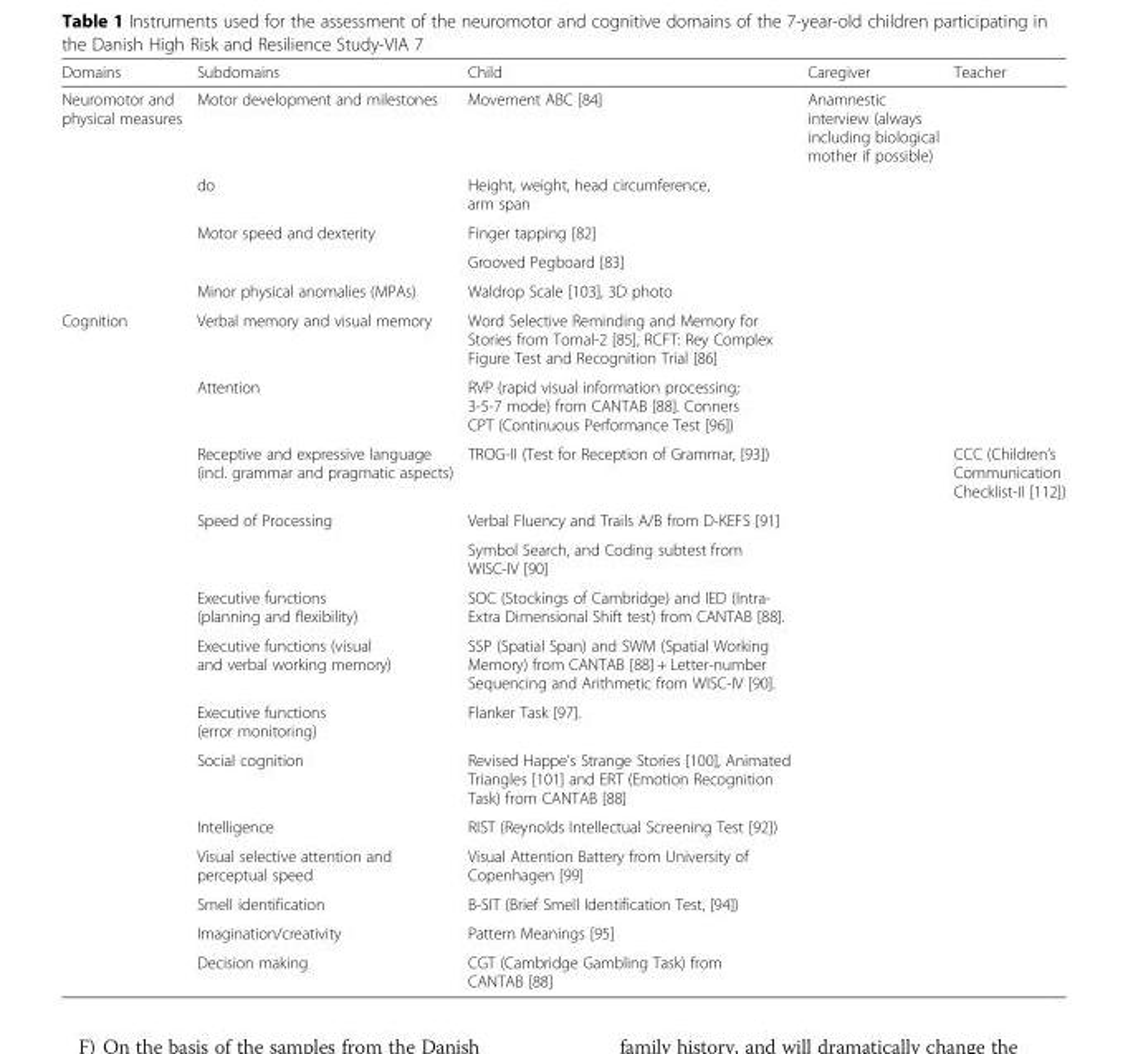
<table><thead><tr><td>Domains</td><td>Subdomains</td><td>Child</td><td>Caregiver</td><td>Teacher</td></tr></thead><tbody><tr><td rowspan="5">Neuromotor and physical measures</td><td>Motor development and milestones</td><td>Movement ABC [84]</td><td>Anamnestic interview (always including biological mother if possible)</td><td></td></tr><tr><td>do</td><td>Height, weight, head circumference, arm span</td><td></td><td></td></tr><tr><td rowspan="2">Motor speed and dexterity</td><td>Finger tapping [82]</td><td rowspan="2"></td><td rowspan="2"></td></tr><tr><td>Grooved Pegboard [83]</td></tr><tr><td>Minor physical anomalies (MPAs)</td><td>Waldrop Scale [103], 3D photo</td><td></td><td></td></tr><tr><td rowspan="14">Cognition</td><td>Verbal memory and visual memory</td><td>Word Selective Reminding and Memory for Stories from Tomal-2 [85], RCFT: Rey Complex Figure Test and Recognition Trial [86]</td><td></td><td></td></tr><tr><td>Attention</td><td>RVP (rapid visual information processing; 3-5-7 mode) from CANTAB [88]. Conners CPT (Continuous Performance Test [96])</td><td></td><td></td></tr><tr><td>Receptive and expressive language (incl. grammar and pragmatic aspects)</td><td>TROG-II (Test for Reception of Grammar, [93])</td><td></td><td>CCC (Children’s Communication Checklist-II [112])</td></tr><tr><td rowspan="2">Speed of Processing</td><td>Verbal Fluency and Trails A/B from D-KEFS [91]</td><td rowspan="2"></td><td rowspan="2"></td></tr><tr><td>Symbol Search, and Coding subtest from WISC-IV [90]</td></tr><tr><td>Executive functions (planning and flexibility)</td><td>SOC (Stockings of Cambridge) and IED (Intra- Extra Dimensional Shift test) from CANTAB [88].</td><td></td><td></td></tr><tr><td>Executive functions (visual and verbal working memory)</td><td>SSP (Spatial Span) and SWM (Spatial Working Memory) from CANTAB [88] + Letter-number Sequencing and Arithmetic from WISC-IV [90].</td><td></td><td></td></tr><tr><td>Executive functions (error monitoring)</td><td>Flanker Task [97].</td><td></td><td></td></tr><tr><td>Social cognition</td><td>Revised Happe’s Strange Stories [100], Animated Triangles [101] and ERT (Emotion Recognition Task) from CANTAB [88]</td><td></td><td></td></tr><tr><td>Intelligence</td><td>RIST (Reynolds Intellectual Screening Test [92])</td><td></td><td></td></tr><tr><td>Visual selective attention and perceptual speed</td><td>Visual Attention Battery from University of Copenhagen [99]</td><td></td><td></td></tr><tr><td>Smell identification</td><td>B-SIT (Brief Smell Identification Test, [94])</td><td></td><td></td></tr><tr><td>Imagination/creativity</td><td>Pattern Meanings [95]</td><td></td><td></td></tr><tr><td>Decision making</td><td>CGT (Cambridge Gambling Task) from CANTAB [88]</td><td></td><td></td></tr></tbody></table>